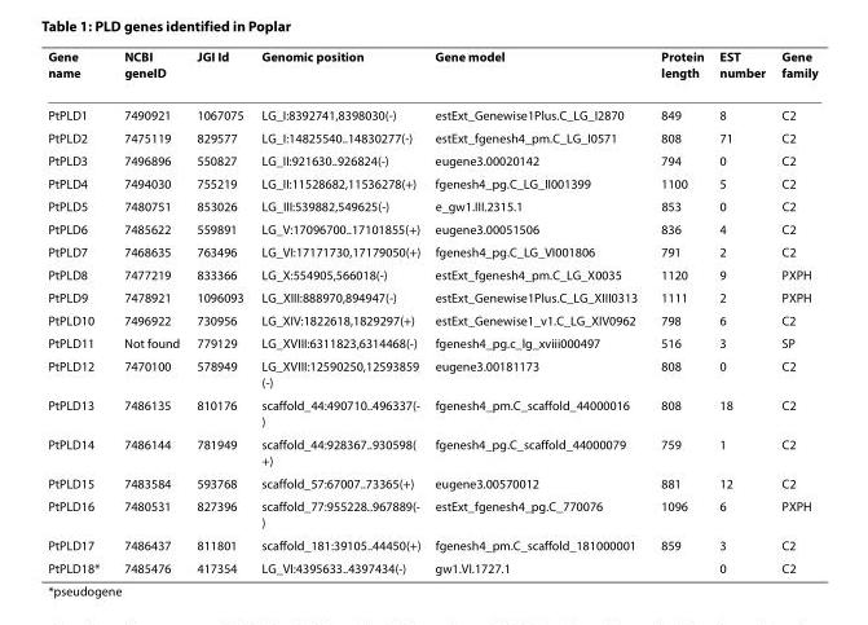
<table><thead><tr><td>Gene name</td><td>NCBI geneID</td><td>JGI Id</td><td>Genomic position</td><td>Gene model</td><td>Protein length</td><td>EST number</td><td>Gene family</td></tr></thead><tbody><tr><td>PtPLD1</td><td>7490921</td><td>1067075</td><td>LG_I:8392741,8398030(-)</td><td>estExt_Genewise1Plus.C_LG_I2870</td><td>849</td><td>8</td><td>C2</td></tr><tr><td>PtPLD2</td><td>7475119</td><td>829577</td><td>LG_I:14825540..14830277(-)</td><td>estExt_fgenesh4_pm.C_LG_I0571</td><td>808</td><td>71</td><td>C2</td></tr><tr><td>PtPLD3</td><td>7496896</td><td>550827</td><td>LG_II:921630..926824(-)</td><td>eugene3.00020142</td><td>794</td><td>0</td><td>C2</td></tr><tr><td>PtPLD4</td><td>7494030</td><td>755219</td><td>LG_II:11528682,11536278(+)</td><td>fgenesh4_pg.C_LG_II001399</td><td>1100</td><td>5</td><td>C2</td></tr><tr><td>PtPLD5</td><td>7480751</td><td>853026</td><td>LG_III:539882,549625(-)</td><td>e_gw1.III.2315.1</td><td>853</td><td>0</td><td>C2</td></tr><tr><td>PtPLD6</td><td>7485622</td><td>559891</td><td>LG_V:17096700..17101855(+)</td><td>eugene3.00051506</td><td>836</td><td>4</td><td>C2</td></tr><tr><td>PtPLD7</td><td>7468635</td><td>763496</td><td>LG_VI:17171730,17179050(+)</td><td>fgenesh4_pg.C_LG_VI001806</td><td>791</td><td>2</td><td>C2</td></tr><tr><td>PtPLD8</td><td>7477219</td><td>833366</td><td>LG_X:554905,566018(-)</td><td>estExt_fgenesh4_pm.C_LG_X0035</td><td>1120</td><td>9</td><td>PXPH</td></tr><tr><td>PtPLD9</td><td>7478921</td><td>1096093</td><td>LG_XIII:888970,894947(-)</td><td>estExt_Genewise1Plus.C_LG_XIII0313</td><td>1111</td><td>2</td><td>PXPH</td></tr><tr><td>PtPLD10</td><td>7496922</td><td>730956</td><td>LG_XIV:1822618,1829297(+)</td><td>estExt_Genewise1_v1.C_LG_XIV0962</td><td>798</td><td>6</td><td>C2</td></tr><tr><td>PtPLD11</td><td>Not found</td><td>779129</td><td>LG_XVIII:6311823,6314468(-)</td><td>fgenesh4_pg.c_lg_xviii000497</td><td>516</td><td>3</td><td>SP</td></tr><tr><td>PtPLD12</td><td>7470100</td><td>578949</td><td>LG_XVIII:12590250,12593859 (-)</td><td>eugene3.00181173</td><td>808</td><td>0</td><td>C2</td></tr><tr><td>PtPLD13</td><td>7486135</td><td>810176</td><td>scaffold_44:490710..496337(- )</td><td>fgenesh4_pm.C_scaffold_44000016</td><td>808</td><td>18</td><td>C2</td></tr><tr><td>PtPLD14</td><td>7486144</td><td>781949</td><td>scaffold_44:928367..930598( +)</td><td>fgenesh4_pg.C_scaffold_44000079</td><td>759</td><td>1</td><td>C2</td></tr><tr><td>PtPLD15</td><td>7483584</td><td>593768</td><td>scaffold_57:67007..73365(+)</td><td>eugene3.00570012</td><td>881</td><td>12</td><td>C2</td></tr><tr><td>PtPLD16</td><td>7480531</td><td>827396</td><td>scaffold_77:955228..967889(- )</td><td>estExt_fgenesh4_pg.C_770076</td><td>1096</td><td>6</td><td>PXPH</td></tr><tr><td>PtPLD17</td><td>7486437</td><td>811801</td><td>scaffold_181:39105..44450(+)</td><td>fgenesh4_pm.C_scaffold_181000001</td><td>859</td><td>3</td><td>C2</td></tr><tr><td>PtPLD18*</td><td>7485476</td><td>417354</td><td>LG_VI:4395633..4397434(-)</td><td>gw1.VI.1727.1</td><td></td><td>0</td><td>C2</td></tr></tbody></table>